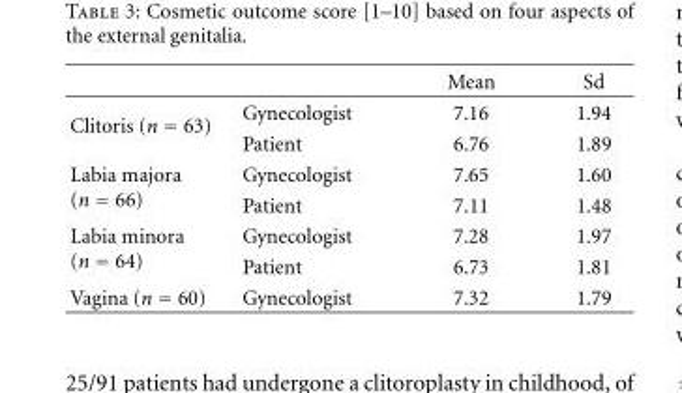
<table><thead><tr><td></td><td></td><td>Mean</td><td>Sd</td></tr></thead><tbody><tr><td rowspan="2">Clitoris (n = 63)</td><td>Gynecologist</td><td>7.16</td><td>1.94</td></tr><tr><td>Patient</td><td>6.76</td><td>1.89</td></tr><tr><td rowspan="2">Labia majora (n = 66)</td><td>Gynecologist</td><td>7.65</td><td>1.60</td></tr><tr><td>Patient</td><td>7.11</td><td>1.48</td></tr><tr><td rowspan="2">Labia minora (n = 64)</td><td>Gynecologist</td><td>7.28</td><td>1.97</td></tr><tr><td>Patient</td><td>6.73</td><td>1.81</td></tr><tr><td>Vagina (n = 60)</td><td>Gynecologist</td><td>7.32</td><td>1.79</td></tr></tbody></table>